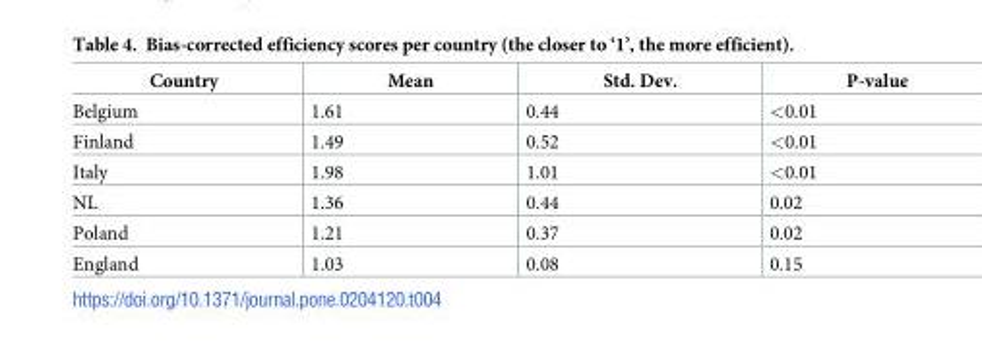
<table><thead><tr><td>Country</td><td>Mean</td><td>Std. Dev.</td><td>P-value</td></tr></thead><tbody><tr><td>Belgium</td><td>1.61</td><td>0.44</td><td>&lt;0.01</td></tr><tr><td>Finland</td><td>1.49</td><td>0.52</td><td>&lt;0.01</td></tr><tr><td>Italy</td><td>1.98</td><td>1.01</td><td>&lt;0.01</td></tr><tr><td>NL</td><td>1.36</td><td>0.44</td><td>0.02</td></tr><tr><td>Poland</td><td>1.21</td><td>0.37</td><td>0.02</td></tr><tr><td>England</td><td>1.03</td><td>0.08</td><td>0.15</td></tr></tbody></table>